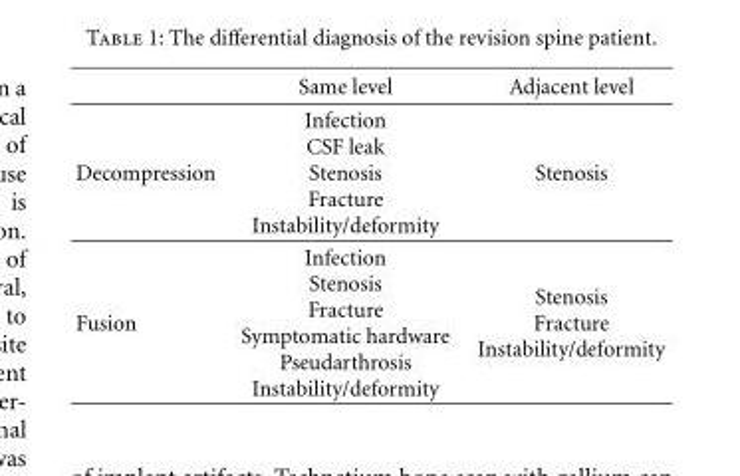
<table><thead><tr><td></td><td>Same level</td><td>Adjacent level</td></tr></thead><tbody><tr><td>Decompression</td><td>Infection CSF leak Stenosis Fracture Instability/deformity</td><td>Stenosis</td></tr><tr><td>Fusion</td><td>Infection Stenosis Fracture Symptomatic hardware Pseudarthrosis Instability/deformity</td><td>Stenosis Fracture Instability/deformity</td></tr></tbody></table>